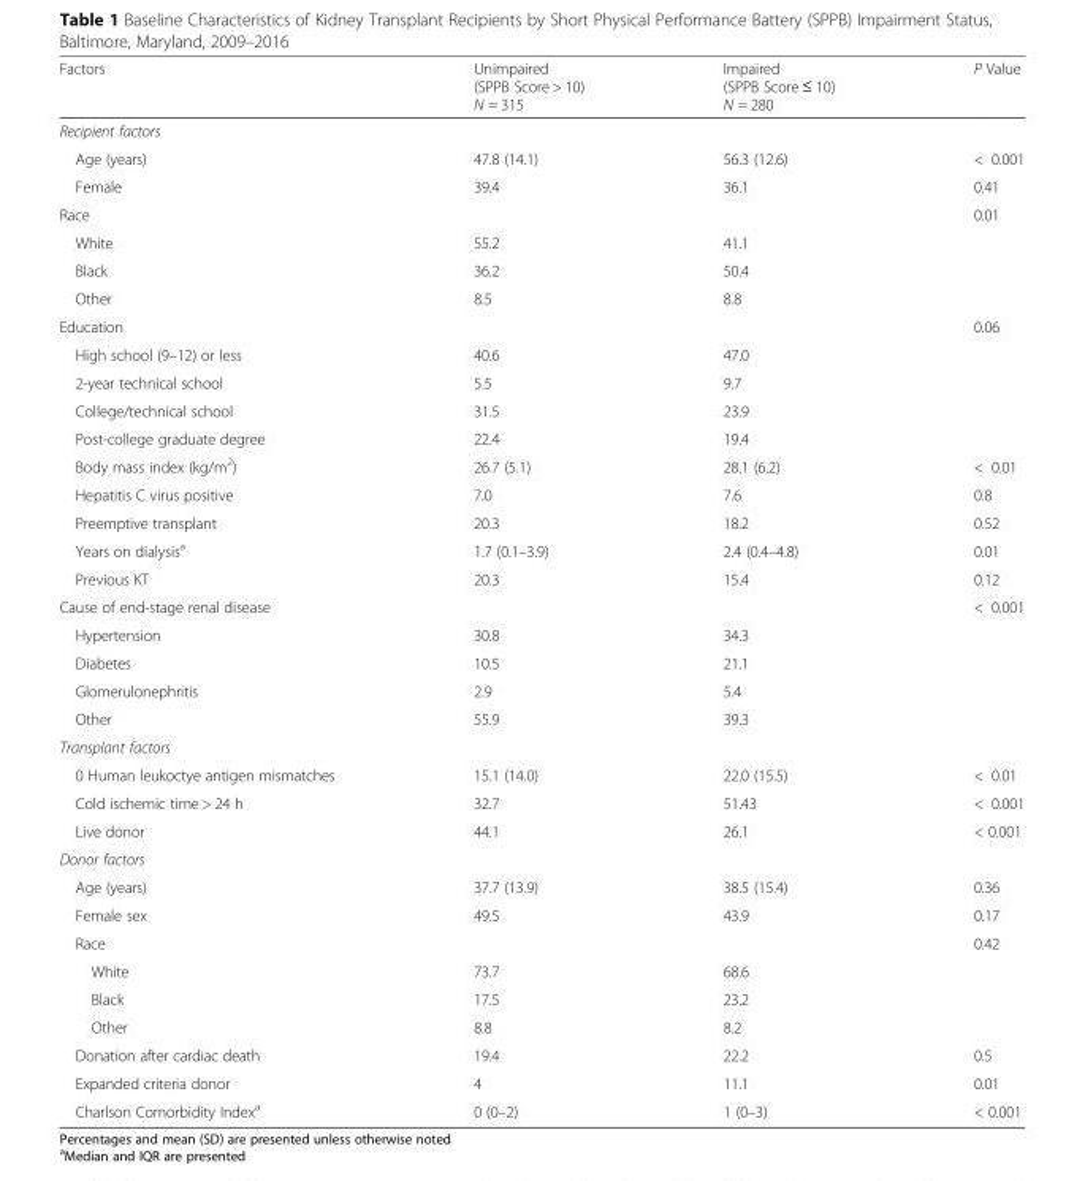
<table><thead><tr><td>Factors</td><td>Unimpaired (SPPB Score &gt; 10) N = 315</td><td>Impaired (SPPB Score ≤ 10) N = 280</td><td>P Value</td></tr></thead><tbody><tr><td colspan="4">Recipient factors</td></tr><tr><td>Age (years)</td><td>47.8 (14.1)</td><td>56.3 (12.6)</td><td>&lt; 0.001</td></tr><tr><td>Female</td><td>39.4</td><td>36.1</td><td>0.41</td></tr><tr><td>Race</td><td></td><td></td><td>0.01</td></tr><tr><td>White</td><td>55.2</td><td>41.1</td><td></td></tr><tr><td>Black</td><td>36.2</td><td>50.4</td><td></td></tr><tr><td>Other</td><td>8.5</td><td>8.8</td><td></td></tr><tr><td>Education</td><td></td><td></td><td>0.06</td></tr><tr><td>High school (9–12) or less</td><td>40.6</td><td>47.0</td><td></td></tr><tr><td>2-year technical school</td><td>5.5</td><td>9.7</td><td></td></tr><tr><td>College/technical school</td><td>31.5</td><td>23.9</td><td></td></tr><tr><td>Post-college graduate degree</td><td>22.4</td><td>19.4</td><td></td></tr><tr><td>Body mass index (kg/m<sup>2</sup>)</td><td>26.7 (5.1)</td><td>28.1 (6.2)</td><td>&lt; 0.01</td></tr><tr><td>Hepatitis C virus positive</td><td>7.0</td><td>7.6</td><td>0.8</td></tr><tr><td>Preemptive transplant</td><td>20.3</td><td>18.2</td><td>0.52</td></tr><tr><td>Years on dialysis<sup>a</sup></td><td>1.7 (0.1–3.9)</td><td>2.4 (0.4–4.8)</td><td>0.01</td></tr><tr><td>Previous KT</td><td>20.3</td><td>15.4</td><td>0.12</td></tr><tr><td>Cause of end-stage renal disease</td><td></td><td></td><td>&lt; 0.001</td></tr><tr><td>Hypertension</td><td>30.8</td><td>34.3</td><td></td></tr><tr><td>Diabetes</td><td>10.5</td><td>21.1</td><td></td></tr><tr><td>Glomerulonephritis</td><td>2.9</td><td>5.4</td><td></td></tr><tr><td>Other</td><td>55.9</td><td>39.3</td><td></td></tr><tr><td colspan="4">Transplant factors</td></tr><tr><td>0 Human leukoctye antigen mismatches</td><td>15.1 (14.0)</td><td>22.0 (15.5)</td><td>&lt; 0.01</td></tr><tr><td>Cold ischemic time &gt; 24 h</td><td>32.7</td><td>51.43</td><td>&lt; 0.001</td></tr><tr><td>Live donor</td><td>44.1</td><td>26.1</td><td>&lt; 0.001</td></tr><tr><td colspan="4">Donor factors</td></tr><tr><td>Age (years)</td><td>37.7 (13.9)</td><td>38.5 (15.4)</td><td>0.36</td></tr><tr><td>Female sex</td><td>49.5</td><td>43.9</td><td>0.17</td></tr><tr><td>Race</td><td></td><td></td><td>0.42</td></tr><tr><td>White</td><td>73.7</td><td>68.6</td><td></td></tr><tr><td>Black</td><td>17.5</td><td>23.2</td><td></td></tr><tr><td>Other</td><td>8.8</td><td>8.2</td><td></td></tr><tr><td>Donation after cardiac death</td><td>19.4</td><td>22.2</td><td>0.5</td></tr><tr><td>Expanded criteria donor</td><td>4</td><td>11.1</td><td>0.01</td></tr><tr><td>Charlson Comorbidity Index<sup>a</sup></td><td>0 (0–2)</td><td>1 (0–3)</td><td>&lt; 0.001</td></tr></tbody></table>